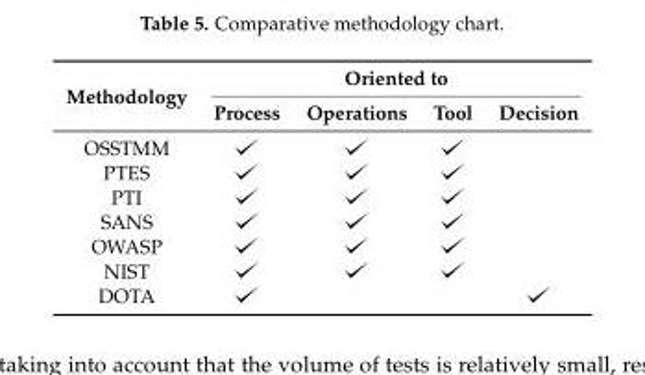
<table><thead><tr><td rowspan="2">Methodology</td><td colspan="4">Oriented to</td></tr><tr><td>Process</td><td>Operations</td><td>Tool</td><td>Decision</td></tr></thead><tbody><tr><td colspan="5">OSSTMM</td></tr><tr><td colspan="5">PTES</td></tr><tr><td colspan="5">PTI</td></tr><tr><td colspan="5">SANS</td></tr><tr><td colspan="5">OWASP</td></tr><tr><td colspan="5">NIST</td></tr><tr><td>DOTA</td><td></td><td></td><td></td><td></td></tr></tbody></table>